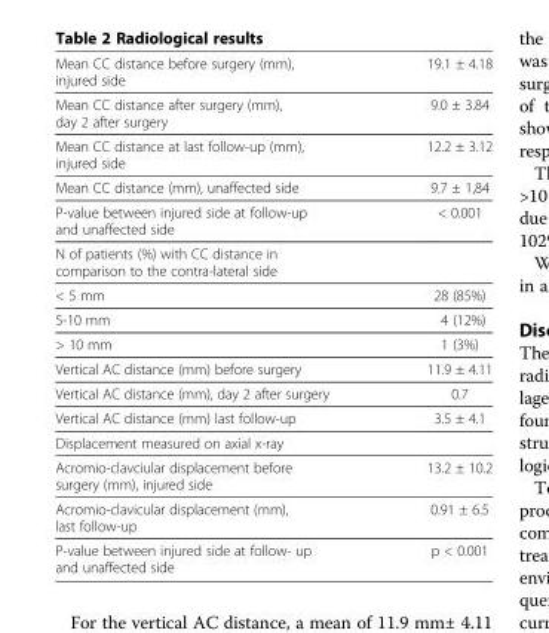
<table><tbody><tr><td>Mean CC distance before surgery (mm), injured side</td><td>19.1 ± 4.18</td></tr><tr><td>Mean CC distance after surgery (mm), day 2 after surgery</td><td>9.0 ± 3.84</td></tr><tr><td>Mean CC distance at last follow-up (mm), injured side</td><td>12.2 ± 3.12</td></tr><tr><td>Mean CC distance (mm), unaffected side</td><td>9.7 ± 1,84</td></tr><tr><td>P-value between injured side at follow-up and unaffected side</td><td>&lt; 0.001</td></tr><tr><td colspan="2">N of patients (%) with CC distance in comparison to the contra-lateral side</td></tr><tr><td>&lt; 5 mm</td><td>28 (85%)</td></tr><tr><td>5-10 mm</td><td>4 (12%)</td></tr><tr><td>&gt; 10 mm</td><td>1 (3%)</td></tr><tr><td>Vertical AC distance (mm) before surgery</td><td>11.9 ± 4.11</td></tr><tr><td>Vertical AC distance (mm), day 2 after surgery</td><td>0.7</td></tr><tr><td>Vertical AC distance (mm) last follow-up</td><td>3.5 ± 4.1</td></tr><tr><td colspan="2">Displacement measured on axial x-ray</td></tr><tr><td>Acromio-clavciular displacement before surgery (mm), injured side</td><td>13.2 ± 10.2</td></tr><tr><td>Acromio-clavicular displacement (mm), last follow-up</td><td>0.91 ± 6.5</td></tr><tr><td>P-value between injured side at follow- up and unaffected side</td><td>p &lt; 0.001</td></tr></tbody></table>